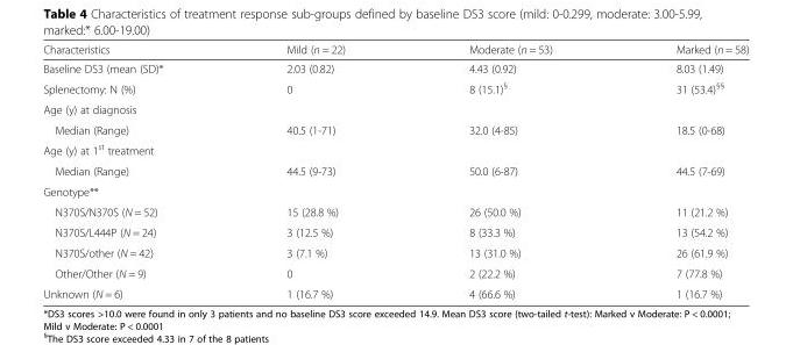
<table><thead><tr><td>Characteristics</td><td>Mild (n = 22)</td><td>Moderate (n = 53)</td><td>Marked (n = 58)</td></tr></thead><tbody><tr><td>Baseline DS3 (mean (SD)*</td><td>2.03 (0.82)</td><td>4.43 (0.92)</td><td>8.03 (1.49)</td></tr><tr><td>Splenectomy: N (%)</td><td>0</td><td>8 (15.1)<sup>§</sup></td><td>31 (53.4)<sup>§§</sup></td></tr><tr><td colspan="4">Age (y) at diagnosis</td></tr><tr><td>Median (Range)</td><td>40.5 (1-71)</td><td>32.0 (4-85)</td><td>18.5 (0-68)</td></tr><tr><td colspan="4">Age (y) at 1<sup>st</sup> treatment</td></tr><tr><td>Median (Range)</td><td>44.5 (9-73)</td><td>50.0 (6-87)</td><td>44.5 (7-69)</td></tr><tr><td colspan="4">Genotype**</td></tr><tr><td>N370S/N370S (N = 52)</td><td>15 (28.8 %)</td><td>26 (50.0 %)</td><td>11 (21.2 %)</td></tr><tr><td>N370S/L444P (N = 24)</td><td>3 (12.5 %)</td><td>8 (33.3 %)</td><td>13 (54.2 %)</td></tr><tr><td>N370S/other (N = 42)</td><td>3 (7.1 %)</td><td>13 (31.0 %)</td><td>26 (61.9 %)</td></tr><tr><td>Other/Other (N = 9)</td><td>0</td><td>2 (22.2 %)</td><td>7 (77.8 %)</td></tr><tr><td>Unknown (N = 6)</td><td>1 (16.7 %)</td><td>4 (66.6 %)</td><td>1 (16.7 %)</td></tr></tbody></table>